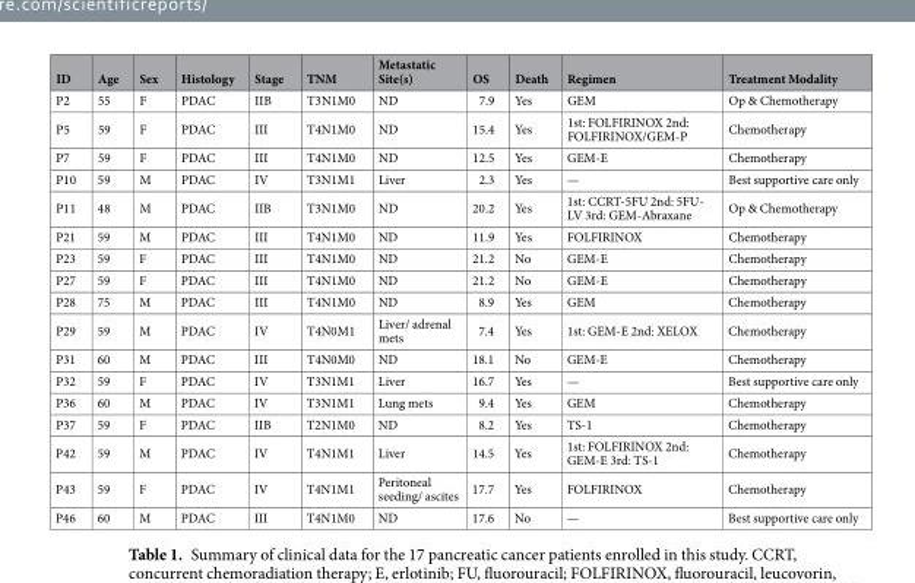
<table><thead><tr><td>ID</td><td>Age</td><td>Sex</td><td>Histology</td><td>Stage</td><td>TNM</td><td>Metastatic Site(s)</td><td>OS</td><td>Death</td><td>Regimen</td><td>Treatment Modality</td></tr></thead><tbody><tr><td>P2</td><td>55</td><td>F</td><td>PDAC</td><td>IIB</td><td>T3N1M0</td><td>ND</td><td>7.9</td><td>Yes</td><td>GEM</td><td>Op &amp; Chemotherapy</td></tr><tr><td>P5</td><td>59</td><td>F</td><td>PDAC</td><td>III</td><td>T4N1M0</td><td>ND</td><td>15.4</td><td>Yes</td><td>1st: FOLFIRINOX 2nd: FOLFIRINOX/GEM-P</td><td>Chemotherapy</td></tr><tr><td>P7</td><td>59</td><td>F</td><td>PDAC</td><td>III</td><td>T4N1M0</td><td>ND</td><td>12.5</td><td>Yes</td><td>GEM-E</td><td>Chemotherapy</td></tr><tr><td>P10</td><td>59</td><td>M</td><td>PDAC</td><td>IV</td><td>T3N1M1</td><td>Liver</td><td>2.3</td><td>Yes</td><td>—</td><td>Best supportive care only</td></tr><tr><td>P11</td><td>48</td><td>M</td><td>PDAC</td><td>IIB</td><td>T3N1M0</td><td>ND</td><td>20.2</td><td>Yes</td><td>1st: CCRT-5FU 2nd: 5FU- LV 3rd: GEM-Abraxane</td><td>Op &amp; Chemotherapy</td></tr><tr><td>P21</td><td>59</td><td>M</td><td>PDAC</td><td>III</td><td>T4N1M0</td><td>ND</td><td>11.9</td><td>Yes</td><td>FOLFIRINOX</td><td>Chemotherapy</td></tr><tr><td>P23</td><td>59</td><td>F</td><td>PDAC</td><td>III</td><td>T4N1M0</td><td>ND</td><td>21.2</td><td>No</td><td>GEM-E</td><td>Chemotherapy</td></tr><tr><td>P27</td><td>59</td><td>F</td><td>PDAC</td><td>III</td><td>T4N1M0</td><td>ND</td><td>21.2</td><td>No</td><td>GEM-E</td><td>Chemotherapy</td></tr><tr><td>P28</td><td>75</td><td>M</td><td>PDAC</td><td>III</td><td>T4N1M0</td><td>ND</td><td>8.9</td><td>Yes</td><td>GEM</td><td>Chemotherapy</td></tr><tr><td>P29</td><td>59</td><td>M</td><td>PDAC</td><td>IV</td><td>T4N0M1</td><td>Liver/ adrenal mets</td><td>7.4</td><td>Yes</td><td>1st: GEM-E 2nd: XELOX</td><td>Chemotherapy</td></tr><tr><td>P31</td><td>60</td><td>M</td><td>PDAC</td><td>III</td><td>T4N0M0</td><td>ND</td><td>18.1</td><td>No</td><td>GEM-E</td><td>Chemotherapy</td></tr><tr><td>P32</td><td>59</td><td>F</td><td>PDAC</td><td>IV</td><td>T3N1M1</td><td>Liver</td><td>16.7</td><td>Yes</td><td>—</td><td>Best supportive care only</td></tr><tr><td>P36</td><td>60</td><td>M</td><td>PDAC</td><td>IV</td><td>T3N1M1</td><td>Lung mets</td><td>9.4</td><td>Yes</td><td>GEM</td><td>Chemotherapy</td></tr><tr><td>P37</td><td>59</td><td>F</td><td>PDAC</td><td>IIB</td><td>T2N1M0</td><td>ND</td><td>8.2</td><td>Yes</td><td>TS-1</td><td>Chemotherapy</td></tr><tr><td>P42</td><td>59</td><td>M</td><td>PDAC</td><td>IV</td><td>T4N1M1</td><td>Liver</td><td>14.5</td><td>Yes</td><td>1st: FOLFIRINOX 2nd: GEM-E 3rd: TS-1</td><td>Chemotherapy</td></tr><tr><td>P43</td><td>59</td><td>F</td><td>PDAC</td><td>IV</td><td>T4N1M1</td><td>Peritoneal seeding/ ascites</td><td>17.7</td><td>Yes</td><td>FOLFIRINOX</td><td>Chemotherapy</td></tr><tr><td>P46</td><td>60</td><td>M</td><td>PDAC</td><td>III</td><td>T4N1M0</td><td>ND</td><td>17.6</td><td>No</td><td>—</td><td>Best supportive care only</td></tr></tbody></table>